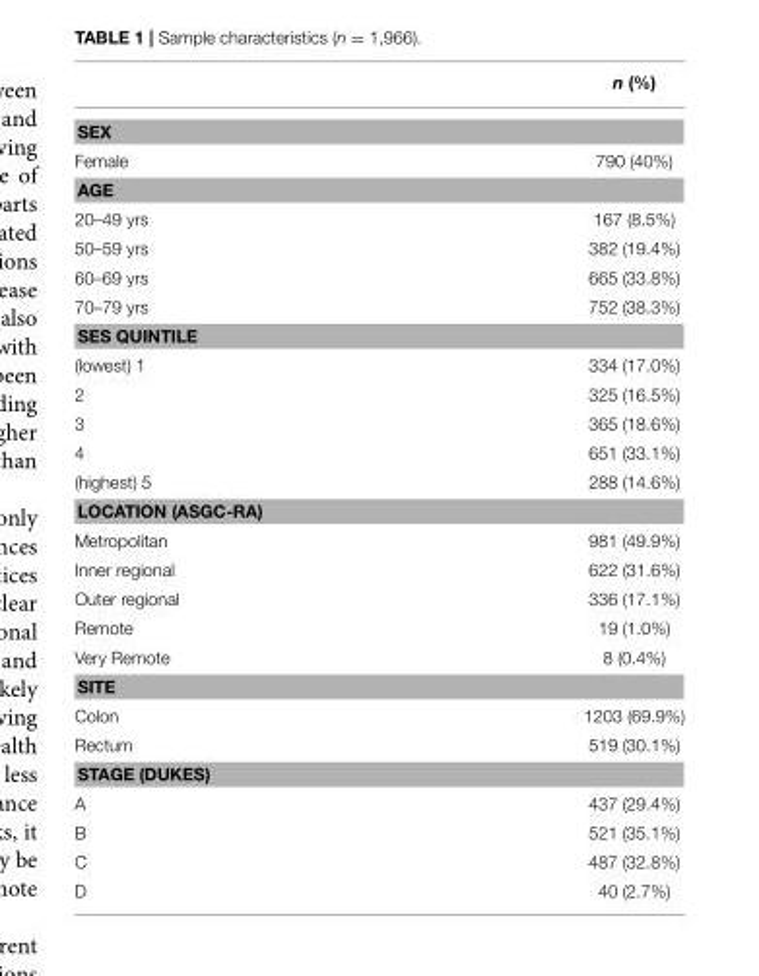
<table><thead><tr><td></td><td>n (%)</td></tr></thead><tbody><tr><td colspan="2">SEX</td></tr><tr><td>Female</td><td>790 (40%)</td></tr><tr><td colspan="2">AGE</td></tr><tr><td>20–49 yrs</td><td>167 (8.5%)</td></tr><tr><td>50–59 yrs</td><td>382 (19.4%)</td></tr><tr><td>60–69 yrs</td><td>665 (33.8%)</td></tr><tr><td>70–79 yrs</td><td>752 (38.3%)</td></tr><tr><td colspan="2">SES QUINTILE</td></tr><tr><td>(lowest) 1</td><td>334 (17.0%)</td></tr><tr><td>2</td><td>325 (16.5%)</td></tr><tr><td>3</td><td>365 (18.6%)</td></tr><tr><td>4</td><td>651 (33.1%)</td></tr><tr><td>(highest) 5</td><td>288 (14.6%)</td></tr><tr><td colspan="2">LOCATION (ASGC-RA)</td></tr><tr><td>Metropolitan</td><td>981 (49.9%)</td></tr><tr><td>Inner regional</td><td>622 (31.6%)</td></tr><tr><td>Outer regional</td><td>336 (17.1%)</td></tr><tr><td>Remote</td><td>19 (1.0%)</td></tr><tr><td>Very Remote</td><td>8 (0.4%)</td></tr><tr><td colspan="2">SITE</td></tr><tr><td>Colon</td><td>1203 (69.9%)</td></tr><tr><td>Rectum</td><td>519 (30.1%)</td></tr><tr><td colspan="2">STAGE (DUKES)</td></tr><tr><td>A</td><td>437 (29.4%)</td></tr><tr><td>B</td><td>521 (35.1%)</td></tr><tr><td>C</td><td>487 (32.8%)</td></tr><tr><td>D</td><td>40 (2.7%)</td></tr></tbody></table>